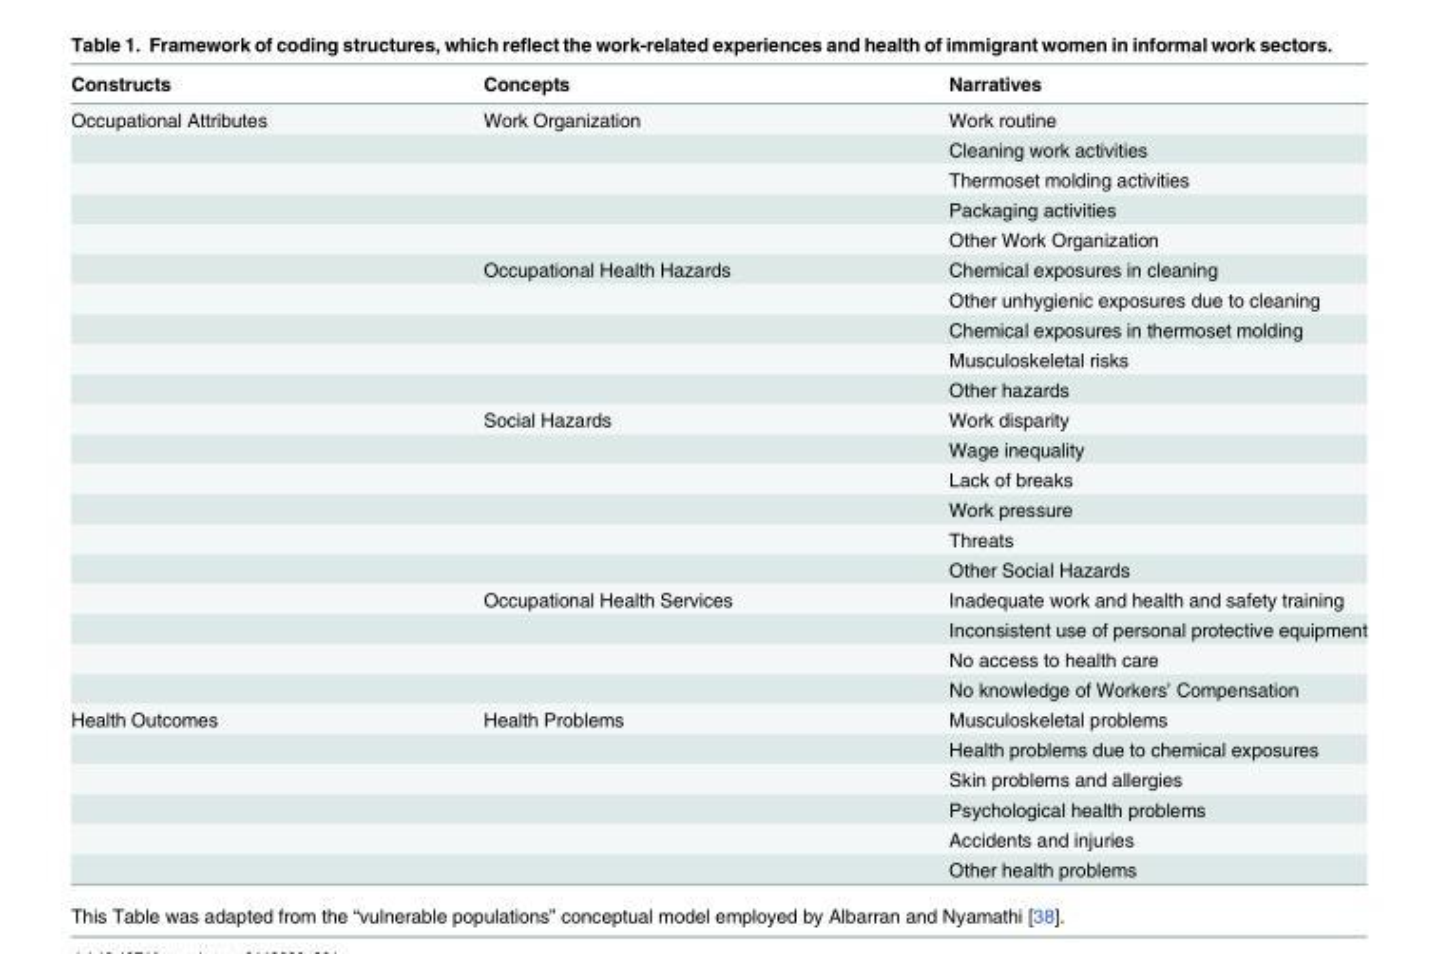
<table><thead><tr><td>Constructs</td><td>Concepts</td><td>Narratives</td></tr></thead><tbody><tr><td rowspan="20">Occupational Attributes</td><td>Work Organization</td><td>Work routine</td></tr><tr><td></td><td>Cleaning work activities</td></tr><tr><td></td><td>Thermoset molding activities</td></tr><tr><td></td><td>Packaging activities</td></tr><tr><td></td><td>Other Work Organization</td></tr><tr><td>Occupational Health Hazards</td><td>Chemical exposures in cleaning</td></tr><tr><td></td><td>Other unhygienic exposures due to cleaning</td></tr><tr><td></td><td>Chemical exposures in thermoset molding</td></tr><tr><td></td><td>Musculoskeletal risks</td></tr><tr><td></td><td>Other hazards</td></tr><tr><td>Social Hazards</td><td>Work disparity</td></tr><tr><td></td><td>Wage inequality</td></tr><tr><td></td><td>Lack of breaks</td></tr><tr><td></td><td>Work pressure</td></tr><tr><td></td><td>Threats</td></tr><tr><td></td><td>Other Social Hazards</td></tr><tr><td>Occupational Health Services</td><td>Inadequate work and health and safety training</td></tr><tr><td></td><td>Inconsistent use of personal protective equipment</td></tr><tr><td></td><td>No access to health care</td></tr><tr><td></td><td>No knowledge of Workers’ Compensation</td></tr><tr><td rowspan="6">Health Outcomes</td><td>Health Problems</td><td>Musculoskeletal problems</td></tr><tr><td></td><td>Health problems due to chemical exposures</td></tr><tr><td></td><td>Skin problems and allergies</td></tr><tr><td></td><td>Psychological health problems</td></tr><tr><td></td><td>Accidents and injuries</td></tr><tr><td></td><td>Other health problems</td></tr></tbody></table>